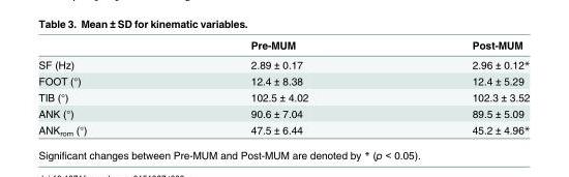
<table><thead><tr><td></td><td>Pre-MUM</td><td>Post-MUM</td></tr></thead><tbody><tr><td>SF (Hz)</td><td>2.89 ± 0.17</td><td>2.96 ± 0.12*</td></tr><tr><td>FOOT (°)</td><td>12.4 ± 8.38</td><td>12.4 ± 5.29</td></tr><tr><td>TIB (°)</td><td>102.5 ± 4.02</td><td>102.3 ± 3.52</td></tr><tr><td>ANK (°)</td><td>90.6 ± 7.04</td><td>89.5 ± 5.09</td></tr><tr><td>ANK<sub>rom</sub> (°)</td><td>47.5 ± 6.44</td><td>45.2 ± 4.96*</td></tr></tbody></table>